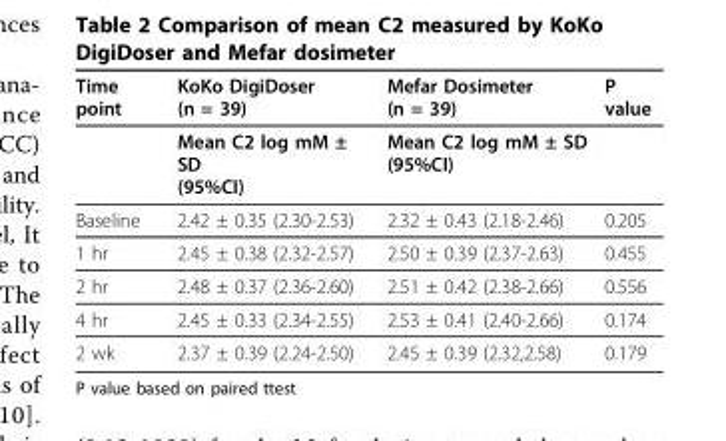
<table><thead><tr><td>Time point</td><td>KoKo DigiDoser (n = 39)</td><td>Mefar Dosimeter (n = 39)</td><td>P value</td></tr></thead><tbody><tr><td></td><td>Mean C2 log mM ± SD (95%CI)</td><td>Mean C2 log mM ± SD (95%CI)</td><td></td></tr><tr><td>Baseline</td><td>2.42 ± 0.35 (2.30-2.53)</td><td>2.32 ± 0.43 (2.18-2.46)</td><td>0.205</td></tr><tr><td>1 hr</td><td>2.45 ± 0.38 (2.32-2.57)</td><td>2.50 ± 0.39 (2.37-2.63)</td><td>0.455</td></tr><tr><td>2 hr</td><td>2.48 ± 0.37 (2.36-2.60)</td><td>2.51 ± 0.42 (2.38-2.66)</td><td>0.556</td></tr><tr><td>4 hr</td><td>2.45 ± 0.33 (2.34-2.55)</td><td>2.53 ± 0.41 (2.40-2.66)</td><td>0.174</td></tr><tr><td>2 wk</td><td>2.37 ± 0.39 (2.24-2.50)</td><td>2.45 ± 0.39 (2.32,2.58)</td><td>0.179</td></tr></tbody></table>